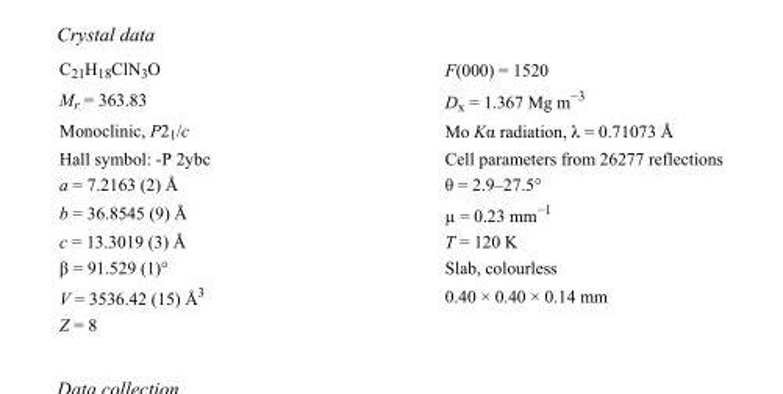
<table><tbody><tr><td>C<sub>21</sub>H<sub>18</sub>ClN<sub>3</sub>O</td><td>F(000) = 1520</td></tr><tr><td>M<sub>r</sub> = 363.83</td><td>D<sub>x</sub> = 1.367 Mg m<sup>−3</sup></td></tr><tr><td>Monoclinic, P2<sub>1</sub>/c</td><td>Mo Kα radiation, λ = 0.71073 Å</td></tr><tr><td>Hall symbol: -P 2ybc</td><td>Cell parameters from 26277 reflections</td></tr><tr><td>a = 7.2163 (2) Å</td><td>θ = 2.9–27.5°</td></tr><tr><td>b = 36.8545 (9) Å</td><td>µ = 0.23 mm<sup>−1</sup></td></tr><tr><td>c = 13.3019 (3) Å</td><td>T = 120 K</td></tr><tr><td>β = 91.529 (1)°</td><td>Slab, colourless</td></tr><tr><td>V = 3536.42 (15) Å<sup>3</sup></td><td>0.40 × 0.40 × 0.14 mm</td></tr><tr><td>Z = 8</td><td></td></tr></tbody></table>